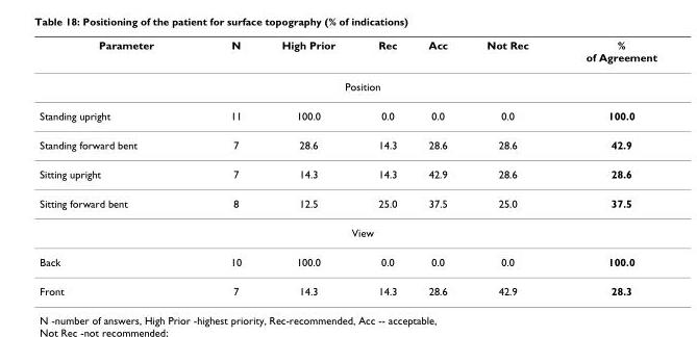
<table><thead><tr><td>Parameter</td><td>N</td><td>High Prior</td><td>Rec</td><td>Acc</td><td>Not Rec</td><td>% of Agreement</td></tr></thead><tbody><tr><td colspan="7">Position</td></tr><tr><td>Standing upright</td><td>11</td><td>100.0</td><td>0.0</td><td>0.0</td><td>0.0</td><td>100.0</td></tr><tr><td>Standing forward bent</td><td>7</td><td>28.6</td><td>14.3</td><td>28.6</td><td>28.6</td><td>42.9</td></tr><tr><td>Sitting upright</td><td>7</td><td>14.3</td><td>14.3</td><td>42.9</td><td>28.6</td><td>28.6</td></tr><tr><td>Sitting forward bent</td><td>8</td><td>12.5</td><td>25.0</td><td>37.5</td><td>25.0</td><td>37.5</td></tr><tr><td colspan="7">View</td></tr><tr><td>Back</td><td>10</td><td>100.0</td><td>0.0</td><td>0.0</td><td>0.0</td><td>100.0</td></tr><tr><td>Front</td><td>7</td><td>14.3</td><td>14.3</td><td>28.6</td><td>42.9</td><td>28.3</td></tr></tbody></table>